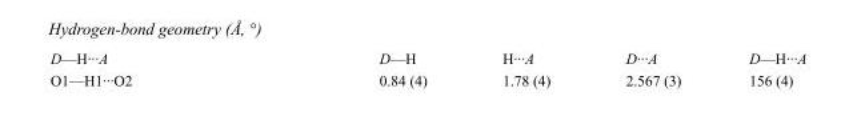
<table><tbody><tr><td>D—H···A</td><td>D—H</td><td>H···A</td><td>D···A</td><td>D—H···A</td></tr><tr><td>O1—H1···O2</td><td>0.84 (4)</td><td>1.78 (4)</td><td>2.567 (3)</td><td>156 (4)</td></tr></tbody></table>